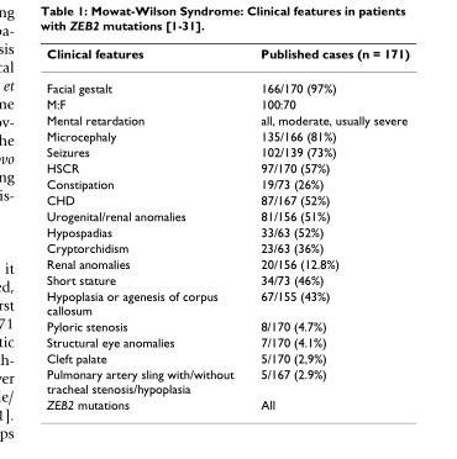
<table><thead><tr><td>Clinical features</td><td>Published cases (n = 171)</td></tr></thead><tbody><tr><td>Facial gestalt</td><td>166/170 (97%)</td></tr><tr><td>M:F</td><td>100:70</td></tr><tr><td>Mental retardation</td><td>all, moderate, usually severe</td></tr><tr><td>Microcephaly</td><td>135/166 (81%)</td></tr><tr><td>Seizures</td><td>102/139 (73%)</td></tr><tr><td>HSCR</td><td>97/170 (57%)</td></tr><tr><td>Constipation</td><td>19/73 (26%)</td></tr><tr><td>CHD</td><td>87/167 (52%)</td></tr><tr><td>Urogenital/renal anomalies</td><td>81/156 (51%)</td></tr><tr><td>Hypospadias</td><td>33/63 (52%)</td></tr><tr><td>Cryptorchidism</td><td>23/63 (36%)</td></tr><tr><td>Renal anomalies</td><td>20/156 (12.8%)</td></tr><tr><td>Short stature</td><td>34/73 (46%)</td></tr><tr><td>Hypoplasia or agenesis of corpus callosum</td><td>67/155 (43%)</td></tr><tr><td>Pyloric stenosis</td><td>8/170 (4.7%)</td></tr><tr><td>Structural eye anomalies</td><td>7/170 (4.1%)</td></tr><tr><td>Cleft palate</td><td>5/170 (2,9%)</td></tr><tr><td>Pulmonary artery sling with/without tracheal stenosis/hypoplasia</td><td>5/167 (2.9%)</td></tr><tr><td>ZEB2 mutations</td><td>All</td></tr></tbody></table>